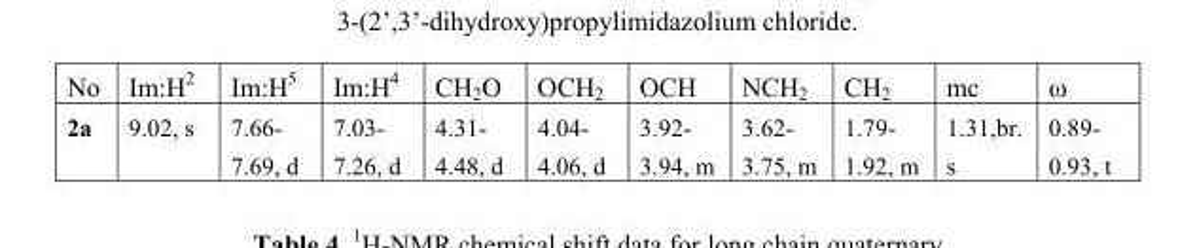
<table><thead><tr><td>No</td><td>Im:H<sup>2</sup></td><td>Im:H<sup>5</sup></td><td>Im:H<sup>4</sup></td><td>CH<sub>2</sub>O</td><td>OCH<sub>2</sub></td><td>OCH</td><td>NCH<sub>2</sub></td><td>CH<sub>2</sub></td><td>mc</td><td>ω</td></tr></thead><tbody><tr><td>2a</td><td>9.02, s</td><td>7.66- 7.69, d</td><td>7.03- 7.26, d</td><td>4.31- 4.48, d</td><td>4.04- 4.06, d</td><td>3.92- 3.94, m</td><td>3.62- 3.75, m</td><td>1.79- 1.92, m</td><td>1.31,br. s</td><td>0.89- 0.93, t</td></tr></tbody></table>